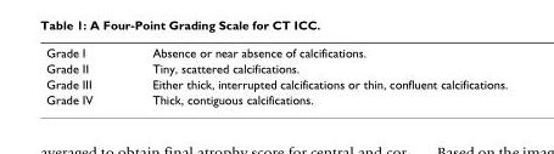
<table><tbody><tr><td>Grade I</td><td>Absence or near absence of calcifications.</td></tr><tr><td>Grade II</td><td>Tiny, scattered calcifications.</td></tr><tr><td>Grade III</td><td>Either thick, interrupted calcifications or thin, confluent calcifications.</td></tr><tr><td>Grade IV</td><td>Thick, contiguous calcifications.</td></tr></tbody></table>